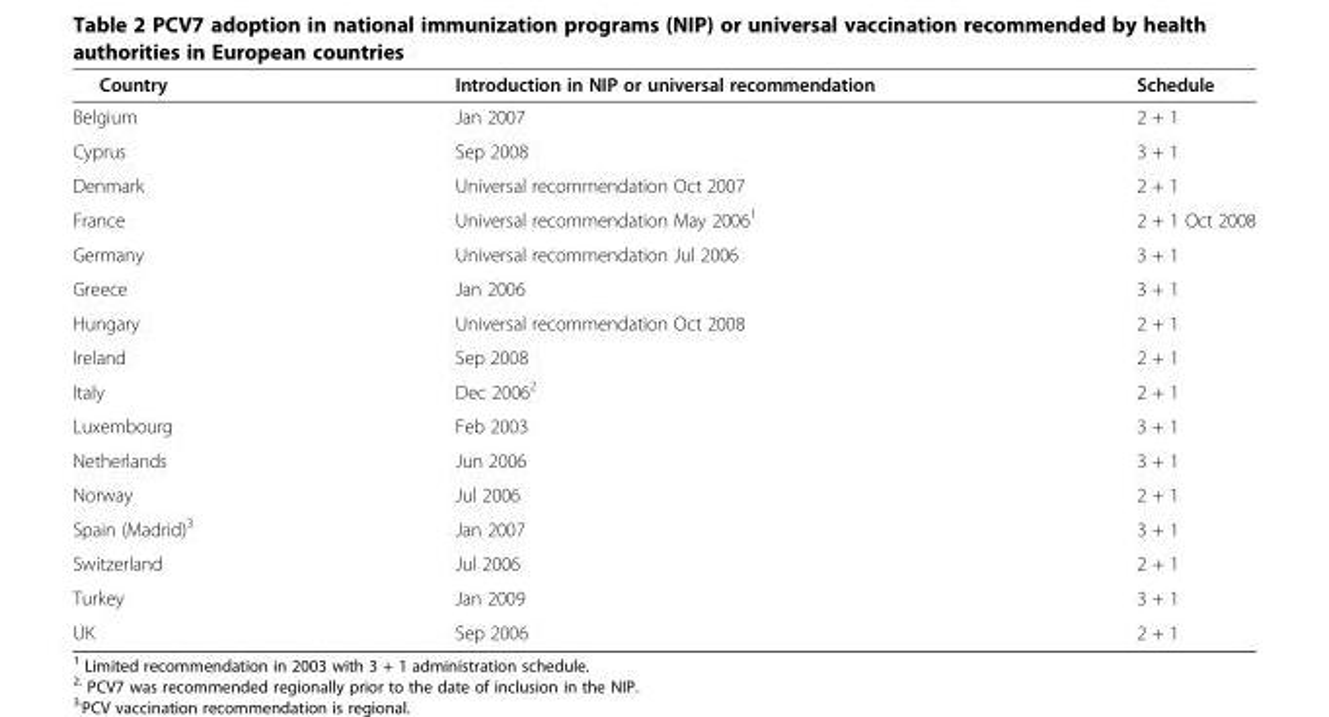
<table><thead><tr><td>Country</td><td>Introduction in NIP or universal recommendation</td><td>Schedule</td></tr></thead><tbody><tr><td>Belgium</td><td>Jan 2007</td><td>2 + 1</td></tr><tr><td>Cyprus</td><td>Sep 2008</td><td>3 + 1</td></tr><tr><td>Denmark</td><td>Universal recommendation Oct 2007</td><td>2 + 1</td></tr><tr><td>France</td><td>Universal recommendation May 2006<sup>1</sup></td><td>2 + 1 Oct 2008</td></tr><tr><td>Germany</td><td>Universal recommendation Jul 2006</td><td>3 + 1</td></tr><tr><td>Greece</td><td>Jan 2006</td><td>3 + 1</td></tr><tr><td>Hungary</td><td>Universal recommendation Oct 2008</td><td>2 + 1</td></tr><tr><td>Ireland</td><td>Sep 2008</td><td>2 + 1</td></tr><tr><td>Italy</td><td>Dec 2006<sup>2</sup></td><td>2 + 1</td></tr><tr><td>Luxembourg</td><td>Feb 2003</td><td>3 + 1</td></tr><tr><td>Netherlands</td><td>Jun 2006</td><td>3 + 1</td></tr><tr><td>Norway</td><td>Jul 2006</td><td>2 + 1</td></tr><tr><td>Spain (Madrid)<sup>3</sup></td><td>Jan 2007</td><td>3 + 1</td></tr><tr><td>Switzerland</td><td>Jul 2006</td><td>2 + 1</td></tr><tr><td>Turkey</td><td>Jan 2009</td><td>3 + 1</td></tr><tr><td>UK</td><td>Sep 2006</td><td>2 + 1</td></tr></tbody></table>